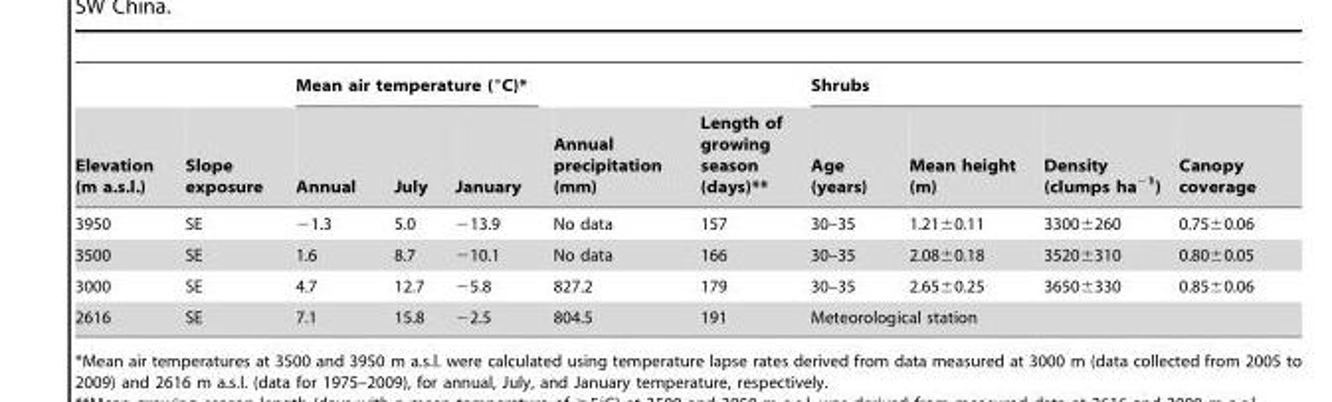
<table><thead><tr><td rowspan="2">Elevation (m a.s.l.)</td><td rowspan="2">Slope exposure</td><td colspan="3">Mean air temperature (°C)*</td><td rowspan="2">Annual precipitation (mm)</td><td rowspan="2">Length of growing season (days)**</td><td colspan="4">Shrubs</td></tr><tr><td>Annual</td><td>July</td><td>January</td><td>Age (years)</td><td>Mean height (m)</td><td>Density (clumps ha<sup>−1</sup>)</td><td>Canopy coverage</td></tr></thead><tbody><tr><td>3950</td><td>SE</td><td>−1.3</td><td>5.0</td><td>−13.9</td><td>No data</td><td>157</td><td>30–35</td><td>1.21±0.11</td><td>3300±260</td><td>0.75±0.06</td></tr><tr><td>3500</td><td>SE</td><td>1.6</td><td>8.7</td><td>−10.1</td><td>No data</td><td>166</td><td>30–35</td><td>2.08±0.18</td><td>3520±310</td><td>0.80±0.05</td></tr><tr><td>3000</td><td>SE</td><td>4.7</td><td>12.7</td><td>−5.8</td><td>827.2</td><td>179</td><td>30–35</td><td>2.65±0.25</td><td>3650±330</td><td>0.85±0.06</td></tr><tr><td>2616</td><td>SE</td><td>7.1</td><td>15.8</td><td>−2.5</td><td>804.5</td><td>191</td><td colspan="4">Meteorological station</td></tr></tbody></table>